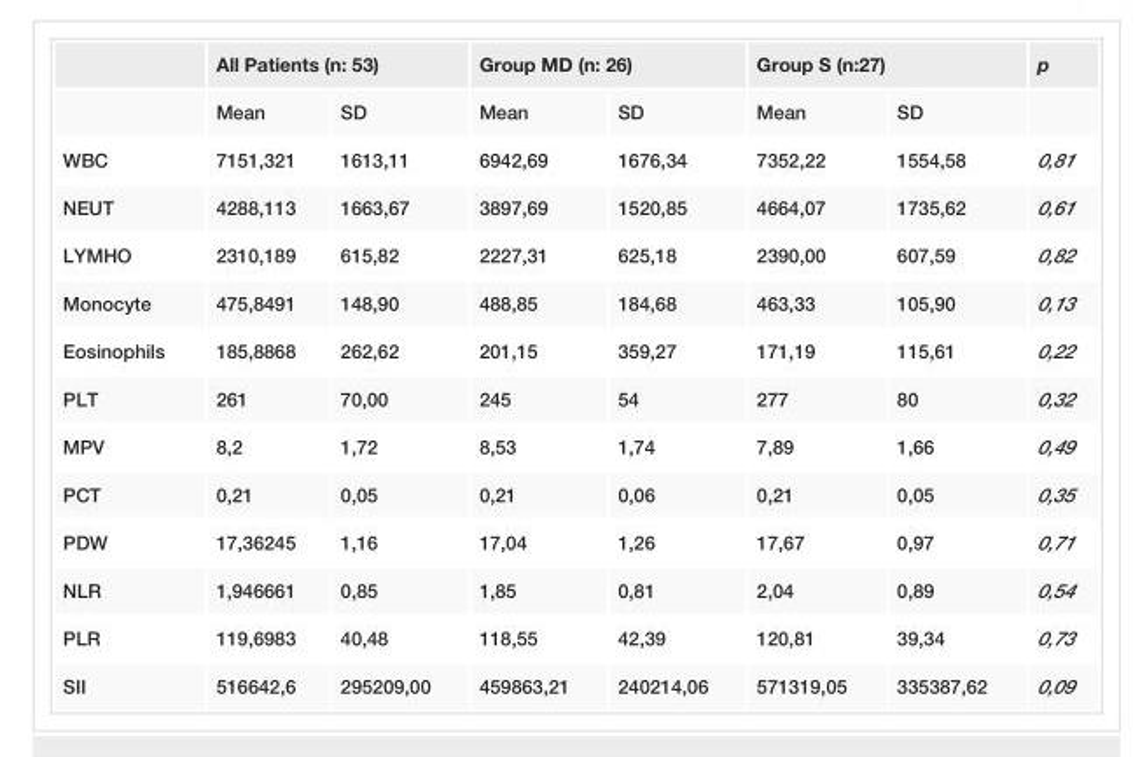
<table><thead><tr><td rowspan="2"></td><td colspan="2">All Patients (n: 53)</td><td colspan="2">Group MD (n: 26)</td><td colspan="2">Group S (n:27)</td><td rowspan="2">p</td></tr><tr><td>Mean</td><td>SD</td><td>Mean</td><td>SD</td><td>Mean</td><td>SD</td></tr></thead><tbody><tr><td>WBC</td><td>7151,321</td><td>1613,11</td><td>6942,69</td><td>1676,34</td><td>7352,22</td><td>1554,58</td><td>0,81</td></tr><tr><td>NEUT</td><td>4288,113</td><td>1663,67</td><td>3897,69</td><td>1520,85</td><td>4664,07</td><td>1735,62</td><td>0,61</td></tr><tr><td>LYMHO</td><td>2310,189</td><td>615,82</td><td>2227,31</td><td>625,18</td><td>2390,00</td><td>607,59</td><td>0,82</td></tr><tr><td>Monocyte</td><td>475,8491</td><td>148,90</td><td>488,85</td><td>184,68</td><td>463,33</td><td>105,90</td><td>0,13</td></tr><tr><td>Eosinophils</td><td>185,8868</td><td>262,62</td><td>201,15</td><td>359,27</td><td>171,19</td><td>115,61</td><td>0,22</td></tr><tr><td>PLT</td><td>261</td><td>70,00</td><td>245</td><td>54</td><td>277</td><td>80</td><td>0,32</td></tr><tr><td>MPV</td><td>8,2</td><td>1,72</td><td>8,53</td><td>1,74</td><td>7,89</td><td>1,66</td><td>0,49</td></tr><tr><td>PCT</td><td>0,21</td><td>0,05</td><td>0,21</td><td>0,06</td><td>0,21</td><td>0,05</td><td>0,35</td></tr><tr><td>PDW</td><td>17,36245</td><td>1,16</td><td>17,04</td><td>1,26</td><td>17,67</td><td>0,97</td><td>0,71</td></tr><tr><td>NLR</td><td>1,946661</td><td>0,85</td><td>1,85</td><td>0,81</td><td>2,04</td><td>0,89</td><td>0,54</td></tr><tr><td>PLR</td><td>119,6983</td><td>40,48</td><td>118,55</td><td>42,39</td><td>120,81</td><td>39,34</td><td>0,73</td></tr><tr><td>SII</td><td>516642,6</td><td>295209,00</td><td>459863,21</td><td>240214,06</td><td>571319,05</td><td>335387,62</td><td>0,09</td></tr></tbody></table>